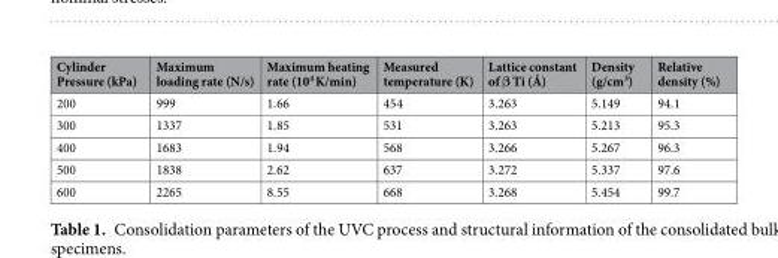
<table><thead><tr><td>Cylinder Pressure (kPa)</td><td>Maximum loading rate (N/s)</td><td>Maximum heating rate (10<sup>4</sup> K/min)</td><td>Measured temperature (K)</td><td>Lattice constant of β Ti (Å)</td><td>Density (g/cm<sup>3</sup>)</td><td>Relative density (%)</td></tr></thead><tbody><tr><td>200</td><td>999</td><td>1.66</td><td>454</td><td>3.263</td><td>5.149</td><td>94.1</td></tr><tr><td>300</td><td>1337</td><td>1.85</td><td>531</td><td>3.263</td><td>5.213</td><td>95.3</td></tr><tr><td>400</td><td>1683</td><td>1.94</td><td>568</td><td>3.266</td><td>5.267</td><td>96.3</td></tr><tr><td>500</td><td>1838</td><td>2.62</td><td>637</td><td>3.272</td><td>5.337</td><td>97.6</td></tr><tr><td>600</td><td>2265</td><td>8.55</td><td>668</td><td>3.268</td><td>5.454</td><td>99.7</td></tr></tbody></table>